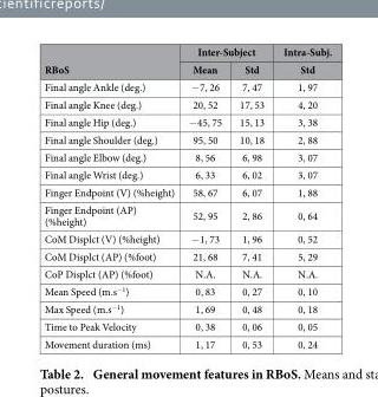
<table><thead><tr><td rowspan="2">RBoS</td><td colspan="2">Inter-Subject</td><td rowspan="2">Intra-Subj. Std</td></tr><tr><td>Mean</td><td>Std</td></tr></thead><tbody><tr><td>Final angle Ankle (deg.)</td><td>− 7, 26</td><td>7, 47</td><td>1, 97</td></tr><tr><td>Final angle Knee (deg.)</td><td>20, 52</td><td>17, 53</td><td>4, 20</td></tr><tr><td>Final angle Hip (deg.)</td><td>− 45, 75</td><td>15, 13</td><td>3, 38</td></tr><tr><td>Final angle Shoulder (deg.)</td><td>95, 50</td><td>10, 18</td><td>2, 88</td></tr><tr><td>Final angle Elbow (deg.)</td><td>8, 56</td><td>6, 98</td><td>3, 07</td></tr><tr><td>Final angle Wrist (deg.)</td><td>6, 33</td><td>6, 02</td><td>3, 07</td></tr><tr><td>Finger Endpoint (V) (%height)</td><td>58, 67</td><td>6, 07</td><td>1, 88</td></tr><tr><td>Finger Endpoint (AP) (%height)</td><td>52, 95</td><td>2, 86</td><td>0, 64</td></tr><tr><td>CoM Displct (V) (%height)</td><td>− 1, 73</td><td>1, 96</td><td>0, 52</td></tr><tr><td>CoM Displct (AP) (%foot)</td><td>21, 68</td><td>7, 41</td><td>5, 29</td></tr><tr><td>CoP Displct (AP) (%foot)</td><td>N.A.</td><td>N.A.</td><td>N.A.</td></tr><tr><td>Mean Speed (m.s<sup>−1</sup>)</td><td>0, 83</td><td>0, 27</td><td>0, 10</td></tr><tr><td>Max Speed (m.s<sup>−1</sup>)</td><td>1, 69</td><td>0, 48</td><td>0, 18</td></tr><tr><td>Time to Peak Velocity</td><td>0, 38</td><td>0, 06</td><td>0, 05</td></tr><tr><td>Movement duration (ms)</td><td>1, 17</td><td>0, 53</td><td>0, 24</td></tr></tbody></table>